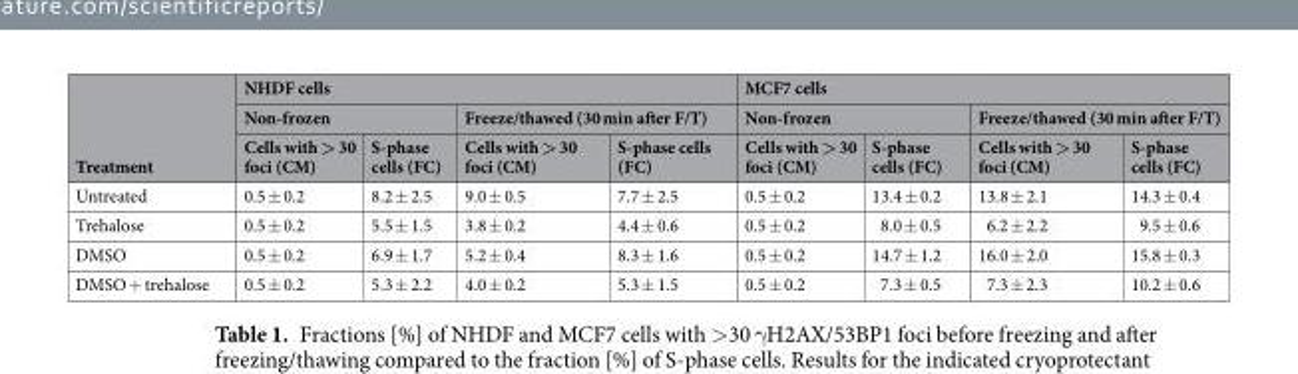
<table><thead><tr><td rowspan="3">Treatment</td><td colspan="4">NHDF cells</td><td colspan="4">MCF7 cells</td></tr><tr><td colspan="2">Non-frozen</td><td colspan="2">Freeze/thawed (30 min after F/T)</td><td colspan="2">Non-frozen</td><td colspan="2">Freeze/thawed (30 min after F/T)</td></tr><tr><td>Cells with &gt; 30 foci (CM)</td><td>S-phase cells (FC)</td><td>Cells with &gt; 30 foci (CM)</td><td>S-phase cells (FC)</td><td>Cells with &gt; 30 foci (CM)</td><td>S-phase cells (FC)</td><td>Cells with &gt; 30 foci (CM)</td><td>S-phase cells (FC)</td></tr></thead><tbody><tr><td>Untreated</td><td>0.5 ± 0.2</td><td>8.2 ± 2.5</td><td>9.0 ± 0.5</td><td>7.7 ± 2.5</td><td>0.5 ± 0.2</td><td>13.4 ± 0.2</td><td>13.8 ± 2.1</td><td>14.3 ± 0.4</td></tr><tr><td>Trehalose</td><td>0.5 ± 0.2</td><td>5.5 ± 1.5</td><td>3.8 ± 0.2</td><td>4.4 ± 0.6</td><td>0.5 ± 0.2</td><td>8.0 ± 0.5</td><td>6.2 ± 2.2</td><td>9.5 ± 0.6</td></tr><tr><td>DMSO</td><td>0.5 ± 0.2</td><td>6.9 ± 1.7</td><td>5.2 ± 0.4</td><td>8.3 ± 1.6</td><td>0.5 ± 0.2</td><td>14.7 ± 1.2</td><td>16.0 ± 2.0</td><td>15.8 ± 0.3</td></tr><tr><td>DMSO + trehalose</td><td>0.5 ± 0.2</td><td>5.3 ± 2.2</td><td>4.0 ± 0.2</td><td>5.3 ± 1.5</td><td>0.5 ± 0.2</td><td>7.3 ± 0.5</td><td>7.3 ± 2.3</td><td>10.2 ± 0.6</td></tr></tbody></table>